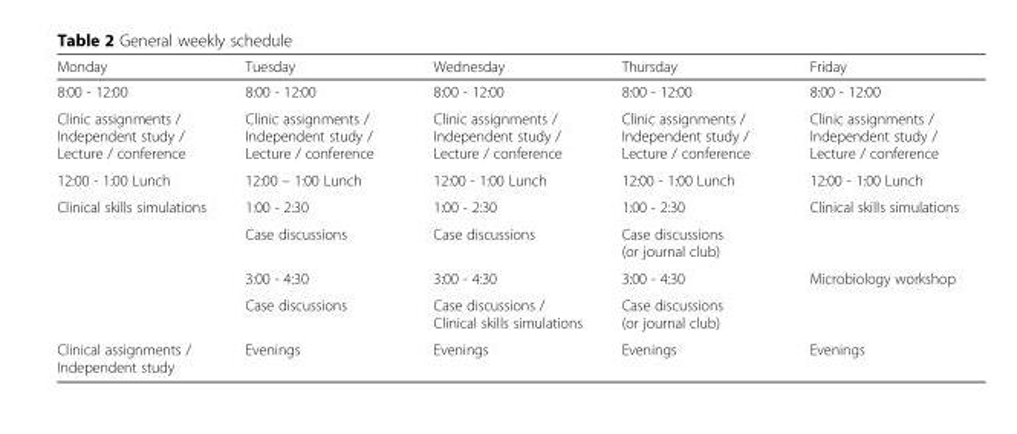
<table><tbody><tr><td>Monday</td><td>Tuesday</td><td>Wednesday</td><td>Thursday</td><td>Friday</td></tr><tr><td>8:00 - 12:00</td><td>8:00 - 12:00</td><td>8:00 - 12:00</td><td>8:00 - 12:00</td><td>8:00 - 12:00</td></tr><tr><td>Clinic assignments / Independent study / Lecture / conference</td><td>Clinic assignments / Independent study / Lecture / conference</td><td>Clinic assignments / Independent study / Lecture / conference</td><td>Clinic assignments / Independent study / Lecture / conference</td><td>Clinic assignments / Independent study / Lecture / conference</td></tr><tr><td>12:00 - 1:00 Lunch</td><td>12:00 – 1:00 Lunch</td><td>12:00 - 1:00 Lunch</td><td>12:00 - 1:00 Lunch</td><td>12:00 - 1:00 Lunch</td></tr><tr><td rowspan="4">Clinical skills simulations</td><td>1:00 - 2:30</td><td>1:00 - 2:30</td><td>1:00 - 2:30</td><td rowspan="2">Clinical skills simulations</td></tr><tr><td>Case discussions</td><td>Case discussions</td><td>Case discussions (or journal club)</td></tr><tr><td>3:00 - 4:30</td><td>3:00 - 4:30</td><td>3:00 - 4:30</td><td rowspan="2">Microbiology workshop</td></tr><tr><td>Case discussions</td><td>Case discussions / Clinical skills simulations</td><td>Case discussions (or journal club)</td></tr><tr><td>Clinical assignments / Independent study</td><td>Evenings</td><td>Evenings</td><td>Evenings</td><td>Evenings</td></tr></tbody></table>